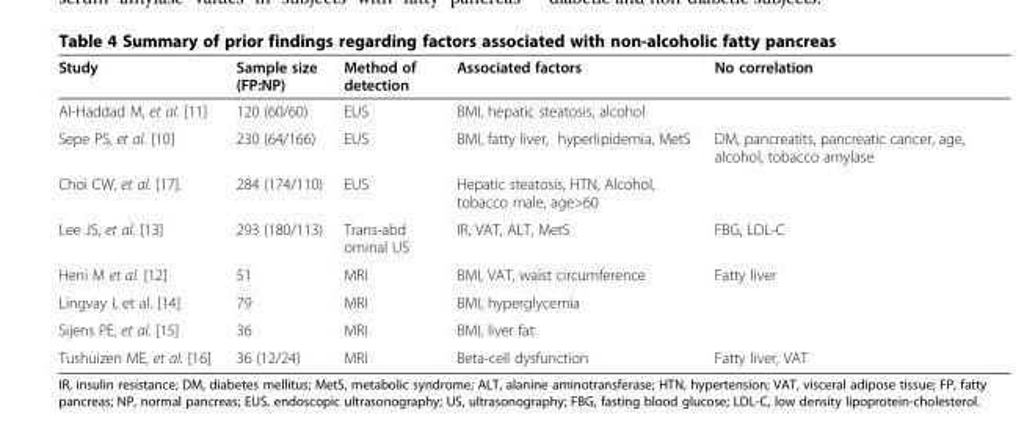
<table><thead><tr><td>Study</td><td>Sample size (FP:NP)</td><td>Method of detection</td><td>Associated factors</td><td>No correlation</td></tr></thead><tbody><tr><td>Al-Haddad M, et al. [11]</td><td>120 (60/60)</td><td>EUS</td><td>BMI, hepatic steatosis, alcohol</td><td></td></tr><tr><td>Sepe PS, et al. [10]</td><td>230 (64/166)</td><td>EUS</td><td>BMI, fatty liver, hyperlipidemia, MetS</td><td>DM, pancreatits, pancreatic cancer, age, alcohol, tobacco amylase</td></tr><tr><td>Choi CW, et al. [17].</td><td>284 (174/110)</td><td>EUS</td><td>Hepatic steatosis, HTN, Alcohol, tobacco male, age&gt;60</td><td></td></tr><tr><td>Lee JS, et al. [13]</td><td>293 (180/113)</td><td>Trans-abd ominal US</td><td>IR, VAT, ALT, MetS</td><td>FBG, LDL-C</td></tr><tr><td>Heni M et al. [12]</td><td>51</td><td>MRI</td><td>BMI, VAT, waist circumference</td><td>Fatty liver</td></tr><tr><td>Lingvay I, et al. [14]</td><td>79</td><td>MRI</td><td>BMI, hyperglycemia</td><td></td></tr><tr><td>Sijens PE, et al. [15]</td><td>36</td><td>MRI</td><td>BMI, liver fat</td><td></td></tr><tr><td>Tushuizen ME, et al. [16]</td><td>36 (12/24)</td><td>MRI</td><td>Beta-cell dysfunction</td><td>Fatty liver, VAT</td></tr></tbody></table>